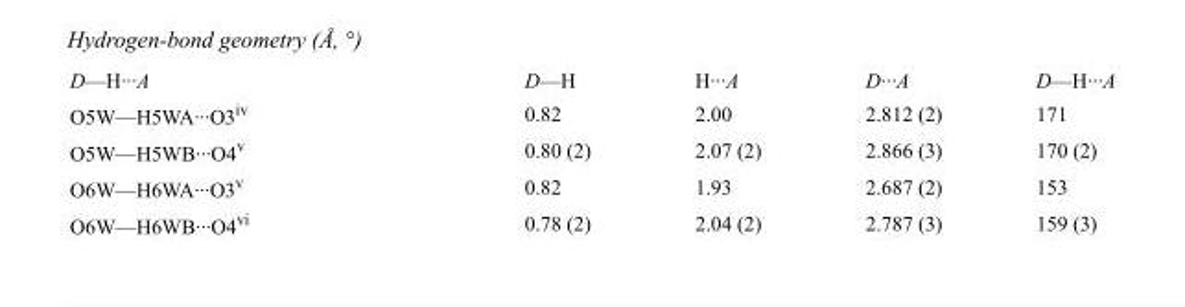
<table><tbody><tr><td>D—H···A</td><td>D—H</td><td>H···A</td><td>D···A</td><td>D—H···A</td></tr><tr><td>O5W—H5WA···O3<sup>iv</sup></td><td>0.82</td><td>2.00</td><td>2.812 (2)</td><td>171</td></tr><tr><td>O5W—H5WB···O4<sup>v</sup></td><td>0.80 (2)</td><td>2.07 (2)</td><td>2.866 (3)</td><td>170 (2)</td></tr><tr><td>O6W—H6WA···O3<sup>v</sup></td><td>0.82</td><td>1.93</td><td>2.687 (2)</td><td>153</td></tr><tr><td>O6W—H6WB···O4<sup>vi</sup></td><td>0.78 (2)</td><td>2.04 (2)</td><td>2.787 (3)</td><td>159 (3)</td></tr></tbody></table>